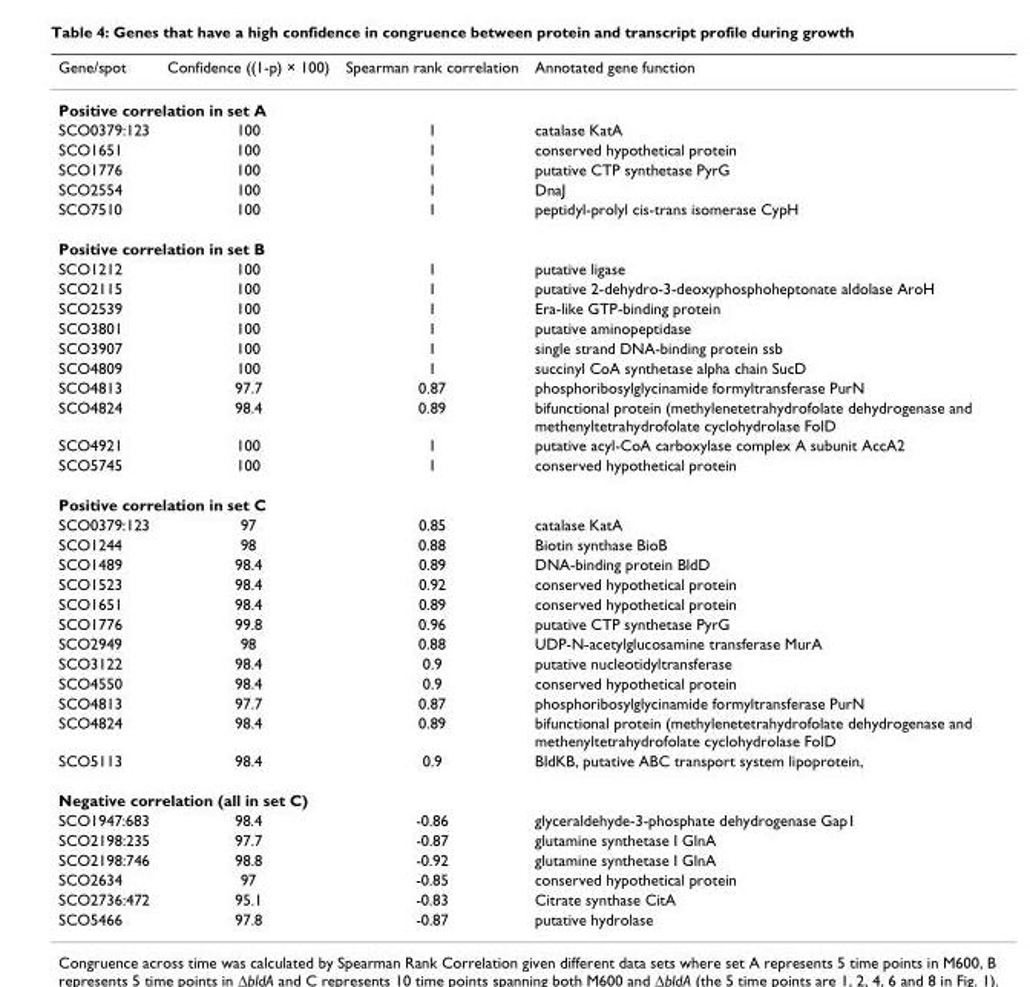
<table><thead><tr><td>Gene/spot</td><td>Confidence ((1-p) × 100)</td><td>Spearman rank correlation</td><td>Annotated gene function</td></tr></thead><tbody><tr><td colspan="4">Positive correlation in set A</td></tr><tr><td>SCO0379:123</td><td>100</td><td>1</td><td>catalase KatA</td></tr><tr><td>SCO1651</td><td>100</td><td>1</td><td>conserved hypothetical protein</td></tr><tr><td>SCO1776</td><td>100</td><td>1</td><td>putative CTP synthetase PyrG</td></tr><tr><td>SCO2554</td><td>100</td><td>1</td><td>DnaJ</td></tr><tr><td>SCO7510</td><td>100</td><td>1</td><td>peptidyl-prolyl cis-trans isomerase CypH</td></tr><tr><td colspan="4">Positive correlation in set B</td></tr><tr><td>SCO1212</td><td>100</td><td>1</td><td>putative ligase</td></tr><tr><td>SCO2115</td><td>100</td><td>1</td><td>putative 2-dehydro-3-deoxyphosphoheptonate aldolase AroH</td></tr><tr><td>SCO2539</td><td>100</td><td>1</td><td>Era-like GTP-binding protein</td></tr><tr><td>SCO3801</td><td>100</td><td>1</td><td>putative aminopeptidase</td></tr><tr><td>SCO3907</td><td>100</td><td>1</td><td>single strand DNA-binding protein ssb</td></tr><tr><td>SCO4809</td><td>100</td><td>1</td><td>succinyl CoA synthetase alpha chain SucD</td></tr><tr><td>SCO4813</td><td>97.7</td><td>0.87</td><td>phosphoribosylglycinamide formyltransferase PurN</td></tr><tr><td>SCO4824</td><td>98.4</td><td>0.89</td><td>bifunctional protein (methylenetetrahydrofolate dehydrogenase and methenyltetrahydrofolate cyclohydrolase FolD</td></tr><tr><td>SCO4921</td><td>100</td><td>1</td><td>putative acyl-CoA carboxylase complex A subunit AccA2</td></tr><tr><td>SCO5745</td><td>100</td><td>1</td><td>conserved hypothetical protein</td></tr><tr><td colspan="4">Positive correlation in set C</td></tr><tr><td>SCO0379:123</td><td>97</td><td>0.85</td><td>catalase KatA</td></tr><tr><td>SCO1244</td><td>98</td><td>0.88</td><td>Biotin synthase BioB</td></tr><tr><td>SCO1489</td><td>98.4</td><td>0.89</td><td>DNA-binding protein BldD</td></tr><tr><td>SCO1523</td><td>98.4</td><td>0.92</td><td>conserved hypothetical protein</td></tr><tr><td>SCO1651</td><td>98.4</td><td>0.89</td><td>conserved hypothetical protein</td></tr><tr><td>SCO1776</td><td>99.8</td><td>0.96</td><td>putative CTP synthetase PyrG</td></tr><tr><td>SCO2949</td><td>98</td><td>0.88</td><td>UDP-N-acetylglucosamine transferase MurA</td></tr><tr><td>SCO3122</td><td>98.4</td><td>0.9</td><td>putative nucleotidyltransferase</td></tr><tr><td>SCO4550</td><td>98.4</td><td>0.9</td><td>conserved hypothetical protein</td></tr><tr><td>SCO4813</td><td>97.7</td><td>0.87</td><td>phosphoribosylglycinamide formyltransferase PurN</td></tr><tr><td>SCO4824</td><td>98.4</td><td>0.89</td><td>bifunctional protein (methylenetetrahydrofolate dehydrogenase and methenyltetrahydrofolate cyclohydrolase FolD</td></tr><tr><td>SCO5113</td><td>98.4</td><td>0.9</td><td>BldKB, putative ABC transport system lipoprotein,</td></tr><tr><td colspan="4">Negative correlation (all in set C)</td></tr><tr><td>SCO1947:683</td><td>98.4</td><td>-0.86</td><td>glyceraldehyde-3-phosphate dehydrogenase Gap1</td></tr><tr><td>SCO2198:235</td><td>97.7</td><td>-0.87</td><td>glutamine synthetase I GlnA</td></tr><tr><td>SCO2198:746</td><td>98.8</td><td>-0.92</td><td>glutamine synthetase I GlnA</td></tr><tr><td>SCO2634</td><td>97</td><td>-0.85</td><td>conserved hypothetical protein</td></tr><tr><td>SCO2736:472</td><td>95.1</td><td>-0.83</td><td>Citrate synthase CitA</td></tr><tr><td>SCO5466</td><td>97.8</td><td>-0.87</td><td>putative hydrolase</td></tr></tbody></table>